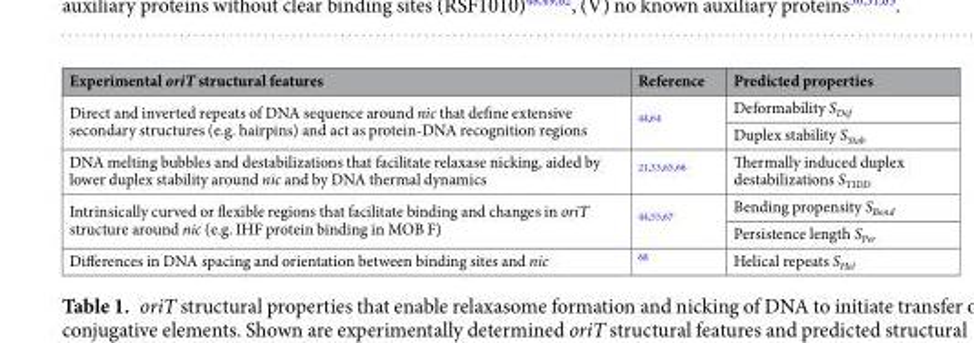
<table><thead><tr><td>Experimental oriT structural features</td><td>Reference</td><td>Predicted properties</td></tr></thead><tbody><tr><td rowspan="2">Direct and inverted repeats of DNA sequence around nic that define extensive secondary structures (e.g. hairpins) and act as protein-DNA recognition regions</td><td rowspan="2"><sup>44,64</sup></td><td>Deformability S<sub>Def</sub></td></tr><tr><td>Duplex stability S<sub>Stab</sub></td></tr><tr><td>DNA melting bubbles and destabilizations that facilitate relaxase nicking, aided by lower duplex stability around nic and by DNA thermal dynamics</td><td><sup>21,33,65,66</sup></td><td>Thermally induced duplex destabilizations S<sub>TIDD</sub></td></tr><tr><td rowspan="2">Intrinsically curved or flexible regions that facilitate binding and changes in oriT structure around nic (e.g. IHF protein binding in MOB F)</td><td rowspan="2"><sup>44,55,67</sup></td><td>Bending propensity S<sub>Bend</sub></td></tr><tr><td>Persistence length S<sub>Per</sub></td></tr><tr><td>Differences in DNA spacing and orientation between binding sites and nic</td><td><sup>68</sup></td><td>Helical repeats S<sub>Hel</sub></td></tr></tbody></table>